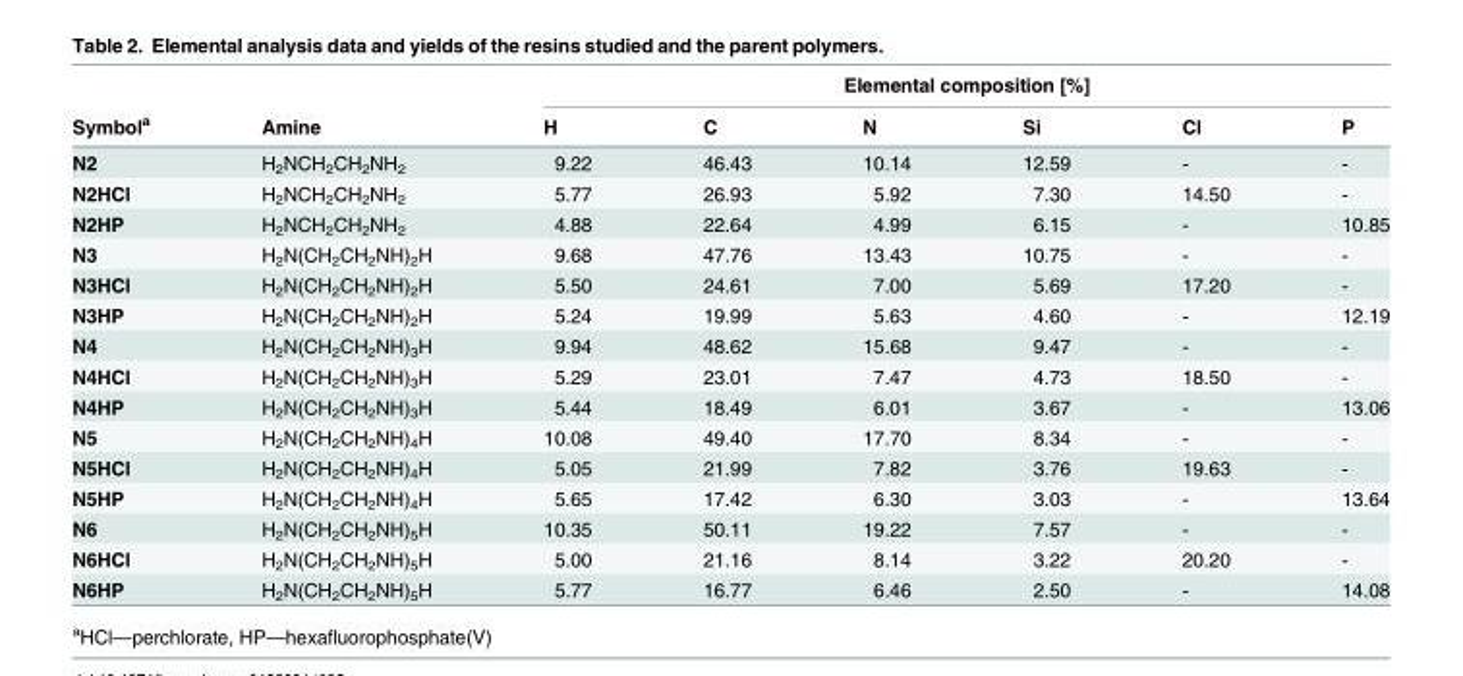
<table><thead><tr><td rowspan="2">Symbol<sup>a</sup></td><td rowspan="2">Amine</td><td colspan="6">Elemental composition [%]</td></tr><tr><td>H</td><td>C</td><td>N</td><td>Si</td><td>Cl</td><td>P</td></tr></thead><tbody><tr><td>N2</td><td>H<sub>2</sub>NCH<sub>2</sub>CH<sub>2</sub>NH<sub>2</sub></td><td>9.22</td><td>46.43</td><td>10.14</td><td>12.59</td><td>-</td><td>-</td></tr><tr><td>N2HCl</td><td>H<sub>2</sub>NCH<sub>2</sub>CH<sub>2</sub>NH<sub>2</sub></td><td>5.77</td><td>26.93</td><td>5.92</td><td>7.30</td><td>14.50</td><td>-</td></tr><tr><td>N2HP</td><td>H<sub>2</sub>NCH<sub>2</sub>CH<sub>2</sub>NH<sub>2</sub></td><td>4.88</td><td>22.64</td><td>4.99</td><td>6.15</td><td>-</td><td>10.85</td></tr><tr><td>N3</td><td>H<sub>2</sub>N(CH<sub>2</sub>CH<sub>2</sub>NH)<sub>2</sub>H</td><td>9.68</td><td>47.76</td><td>13.43</td><td>10.75</td><td>-</td><td>-</td></tr><tr><td>N3HCl</td><td>H<sub>2</sub>N(CH<sub>2</sub>CH<sub>2</sub>NH)<sub>2</sub>H</td><td>5.50</td><td>24.61</td><td>7.00</td><td>5.69</td><td>17.20</td><td>-</td></tr><tr><td>N3HP</td><td>H<sub>2</sub>N(CH<sub>2</sub>CH<sub>2</sub>NH)<sub>2</sub>H</td><td>5.24</td><td>19.99</td><td>5.63</td><td>4.60</td><td>-</td><td>12.19</td></tr><tr><td>N4</td><td>H<sub>2</sub>N(CH<sub>2</sub>CH<sub>2</sub>NH)<sub>3</sub>H</td><td>9.94</td><td>48.62</td><td>15.68</td><td>9.47</td><td>-</td><td>-</td></tr><tr><td>N4HCl</td><td>H<sub>2</sub>N(CH<sub>2</sub>CH<sub>2</sub>NH)<sub>3</sub>H</td><td>5.29</td><td>23.01</td><td>7.47</td><td>4.73</td><td>18.50</td><td>-</td></tr><tr><td>N4HP</td><td>H<sub>2</sub>N(CH<sub>2</sub>CH<sub>2</sub>NH)<sub>3</sub>H</td><td>5.44</td><td>18.49</td><td>6.01</td><td>3.67</td><td>-</td><td>13.06</td></tr><tr><td>N5</td><td>H<sub>2</sub>N(CH<sub>2</sub>CH<sub>2</sub>NH)<sub>4</sub>H</td><td>10.08</td><td>49.40</td><td>17.70</td><td>8.34</td><td>-</td><td>-</td></tr><tr><td>N5HCl</td><td>H<sub>2</sub>N(CH<sub>2</sub>CH<sub>2</sub>NH)<sub>4</sub>H</td><td>5.05</td><td>21.99</td><td>7.82</td><td>3.76</td><td>19.63</td><td>-</td></tr><tr><td>N5HP</td><td>H<sub>2</sub>N(CH<sub>2</sub>CH<sub>2</sub>NH)<sub>4</sub>H</td><td>5.65</td><td>17.42</td><td>6.30</td><td>3.03</td><td>-</td><td>13.64</td></tr><tr><td>N6</td><td>H<sub>2</sub>N(CH<sub>2</sub>CH<sub>2</sub>NH)<sub>5</sub>H</td><td>10.35</td><td>50.11</td><td>19.22</td><td>7.57</td><td>-</td><td>-</td></tr><tr><td>N6HCl</td><td>H<sub>2</sub>N(CH<sub>2</sub>CH<sub>2</sub>NH)<sub>5</sub>H</td><td>5.00</td><td>21.16</td><td>8.14</td><td>3.22</td><td>20.20</td><td>-</td></tr><tr><td>N6HP</td><td>H<sub>2</sub>N(CH<sub>2</sub>CH<sub>2</sub>NH)<sub>5</sub>H</td><td>5.77</td><td>16.77</td><td>6.46</td><td>2.50</td><td>-</td><td>14.08</td></tr></tbody></table>